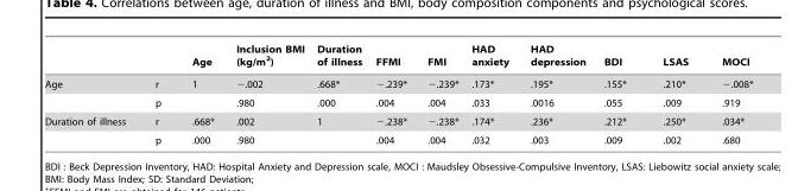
<table><thead><tr><td></td><td></td><td>Age</td><td>Inclusion BMI (kg/m<sup>2</sup>)</td><td>Duration of illness</td><td>FFMI</td><td>FMI</td><td>HAD anxiety</td><td>HAD depression</td><td>BDI</td><td>LSAS</td><td>MOCI</td></tr></thead><tbody><tr><td rowspan="2">Age</td><td>r</td><td>1</td><td>−.002</td><td>.668*</td><td>−.239*</td><td>−.239*</td><td>.173*</td><td>.195*</td><td>.155*</td><td>.210*</td><td>−.008*</td></tr><tr><td>p</td><td></td><td>.980</td><td>.000</td><td>.004</td><td>.004</td><td>.033</td><td>.0016</td><td>.055</td><td>.009</td><td>.919</td></tr><tr><td rowspan="2">Duration of illness</td><td>r</td><td>.668*</td><td>.002</td><td>1</td><td>−.238*</td><td>−.238*</td><td>.174*</td><td>.236*</td><td>.212*</td><td>.250*</td><td>.034*</td></tr><tr><td>p</td><td>.000</td><td>.980</td><td></td><td>.004</td><td>.004</td><td>.032</td><td>.003</td><td>.009</td><td>.002</td><td>.680</td></tr></tbody></table>